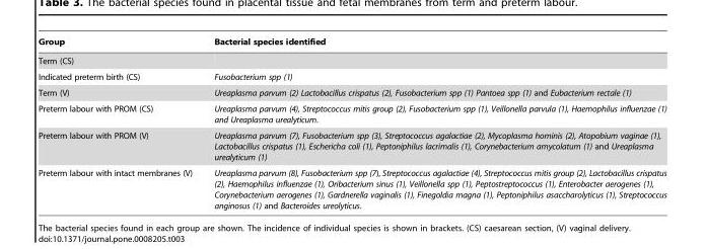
<table><thead><tr><td>Group</td><td>Bacterial species identified</td></tr></thead><tbody><tr><td colspan="2">Term (CS)</td></tr><tr><td>Indicated preterm birth (CS)</td><td>Fusobacterium spp (1)</td></tr><tr><td>Term (V)</td><td>Ureaplasma parvum (2) Lactobacillus crispatus (2), Fusobacterium spp (1) Pantoea spp (1) and Eubacterium rectale (1)</td></tr><tr><td>Preterm labour with PROM (CS)</td><td>Ureaplasma parvum (4), Streptococcus mitis group (2), Fusobacterium spp (1), Veillonella parvula (1), Haemophilus influenzae (1) and Ureaplasma urealyticum.</td></tr><tr><td>Preterm labour with PROM (V)</td><td>Ureaplasma parvum (7), Fusobacterium spp (3), Streptococcus agalactiae (2), Mycoplasma hominis (2), Atopobium vaginae (1), Lactobacillus crispatus (1), Eschericha coli (1), Peptoniphilus lacrimalis (1), Corynebacterium amycolatum (1) and Ureaplasma urealyticum (1)</td></tr><tr><td>Preterm labour with intact membranes (V)</td><td>Ureaplasma parvum (8), Fusobacterium spp (7), Streptococcus agalactiae (4), Streptococcus mitis group (2), Lactobacillus crispatus (2), Haemophilus influenzae (1), Oribacterium sinus (1), Veillonella spp (1), Peptostreptococcus (1), Enterobacter aerogenes (1), Corynebacterium aerogenes (1), Gardnerella vaginalis (1), Finegoldia magna (1), Peptoniphilus asaccharolyticus (1), Streptococcus anginosus (1) and Bacteroides ureolyticus.</td></tr></tbody></table>